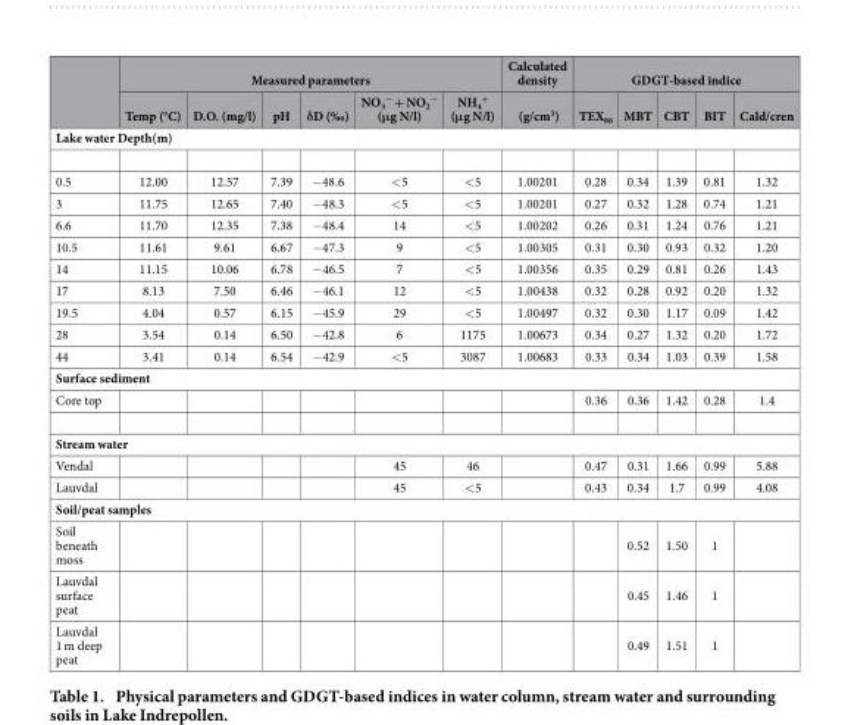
<table><thead><tr><td rowspan="2"></td><td colspan="6">Measured parameters</td><td rowspan="2">Calculated density (g/cm<sup>3</sup>)</td><td colspan="5">GDGT-based indice</td></tr><tr><td>Temp (°C)</td><td>D.O. (mg/l)</td><td>pH</td><td>δD (‰)</td><td>NO<sub>3</sub> <sup>−</sup> + NO<sub>2</sub> <sup>−</sup> (μg N/l)</td><td>NH<sub>4</sub> <sup>+</sup> (μg N/l)</td><td>TEX<sub>86</sub></td><td>MBT</td><td>CBT</td><td>BIT</td><td>Cald/cren</td></tr></thead><tbody><tr><td colspan="13">Lake water Depth(m)</td></tr><tr><td>0.5</td><td>12.00</td><td>12.57</td><td>7.39</td><td>− 48.6</td><td>&lt; 5</td><td>&lt; 5</td><td>1.00201</td><td>0.28</td><td>0.34</td><td>1.39</td><td>0.81</td><td>1.32</td></tr><tr><td>3</td><td>11.75</td><td>12.65</td><td>7.40</td><td>− 48.3</td><td>&lt; 5</td><td>&lt; 5</td><td>1.00201</td><td>0.27</td><td>0.32</td><td>1.28</td><td>0.74</td><td>1.21</td></tr><tr><td>6.6</td><td>11.70</td><td>12.35</td><td>7.38</td><td>− 48.4</td><td>14</td><td>&lt; 5</td><td>1.00202</td><td>0.26</td><td>0.31</td><td>1.24</td><td>0.76</td><td>1.21</td></tr><tr><td>10.5</td><td>11.61</td><td>9.61</td><td>6.67</td><td>− 47.3</td><td>9</td><td>&lt; 5</td><td>1.00305</td><td>0.31</td><td>0.30</td><td>0.93</td><td>0.32</td><td>1.20</td></tr><tr><td>14</td><td>11.15</td><td>10.06</td><td>6.78</td><td>− 46.5</td><td>7</td><td>&lt; 5</td><td>1.00356</td><td>0.35</td><td>0.29</td><td>0.81</td><td>0.26</td><td>1.43</td></tr><tr><td>17</td><td>8.13</td><td>7.50</td><td>6.46</td><td>− 46.1</td><td>12</td><td>&lt; 5</td><td>1.00438</td><td>0.32</td><td>0.28</td><td>0.92</td><td>0.20</td><td>1.32</td></tr><tr><td>19.5</td><td>4.04</td><td>0.57</td><td>6.15</td><td>− 45.9</td><td>29</td><td>&lt; 5</td><td>1.00497</td><td>0.32</td><td>0.30</td><td>1.17</td><td>0.09</td><td>1.42</td></tr><tr><td>28</td><td>3.54</td><td>0.14</td><td>6.50</td><td>− 42.8</td><td>6</td><td>1175</td><td>1.00673</td><td>0.34</td><td>0.27</td><td>1.32</td><td>0.20</td><td>1.72</td></tr><tr><td>44</td><td>3.41</td><td>0.14</td><td>6.54</td><td>− 42.9</td><td>&lt; 5</td><td>3087</td><td>1.00683</td><td>0.33</td><td>0.34</td><td>1.03</td><td>0.39</td><td>1.58</td></tr><tr><td colspan="13">Surface sediment</td></tr><tr><td>Core top</td><td></td><td></td><td></td><td></td><td></td><td></td><td></td><td>0.36</td><td>0.36</td><td>1.42</td><td>0.28</td><td>1.4</td></tr><tr><td colspan="13">Stream water</td></tr><tr><td>Vendal</td><td></td><td></td><td></td><td></td><td>45</td><td>46</td><td></td><td>0.47</td><td>0.31</td><td>1.66</td><td>0.99</td><td>5.88</td></tr><tr><td>Lauvdal</td><td></td><td></td><td></td><td></td><td>45</td><td>&lt; 5</td><td></td><td>0.43</td><td>0.34</td><td>1.7</td><td>0.99</td><td>4.08</td></tr><tr><td colspan="13">Soil/peat samples</td></tr><tr><td>Soil beneath moss</td><td></td><td></td><td></td><td></td><td></td><td></td><td></td><td></td><td>0.52</td><td>1.50</td><td>1</td><td></td></tr><tr><td>Lauvdal surface peat</td><td></td><td></td><td></td><td></td><td></td><td></td><td></td><td></td><td>0.45</td><td>1.46</td><td>1</td><td></td></tr><tr><td>Lauvdal 1 m deep peat</td><td></td><td></td><td></td><td></td><td></td><td></td><td></td><td></td><td>0.49</td><td>1.51</td><td>1</td><td></td></tr></tbody></table>